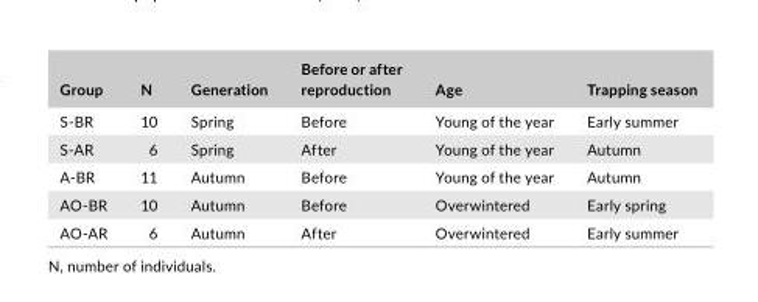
<table><thead><tr><td>Group</td><td>N</td><td>Generation</td><td>Before or after reproduction</td><td>Age</td><td>Trapping season</td></tr></thead><tbody><tr><td>S- BR</td><td>10</td><td>Spring</td><td>Before</td><td>Young of the year</td><td>Early summer</td></tr><tr><td>S- AR</td><td>6</td><td>Spring</td><td>After</td><td>Young of the year</td><td>Autumn</td></tr><tr><td>A- BR</td><td>11</td><td>Autumn</td><td>Before</td><td>Young of the year</td><td>Autumn</td></tr><tr><td>AO- BR</td><td>10</td><td>Autumn</td><td>Before</td><td>Overwintered</td><td>Early spring</td></tr><tr><td>AO- AR</td><td>6</td><td>Autumn</td><td>After</td><td>Overwintered</td><td>Early summer</td></tr></tbody></table>